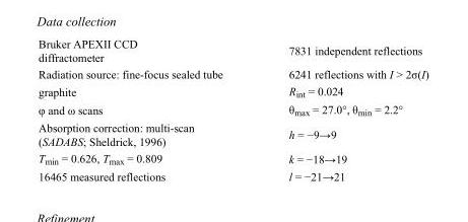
<table><tbody><tr><td>Bruker APEXII CCD diffractometer</td><td>7831 independent reflections</td></tr><tr><td>Radiation source: fine-focus sealed tube</td><td>6241 reflections with I &gt; 2σ(I)</td></tr><tr><td>graphite</td><td>R<sub>int</sub> = 0.024</td></tr><tr><td>φ and ω scans</td><td>θ<sub>max</sub> = 27.0°, θ<sub>min</sub> = 2.2°</td></tr><tr><td>Absorption correction: multi-scan (SADABS; Sheldrick, 1996)</td><td>h = −9→9</td></tr><tr><td>T<sub>min</sub> = 0.626, T<sub>max</sub> = 0.809</td><td>k = −18→19</td></tr><tr><td>16465 measured reflections</td><td>l = −21→21</td></tr></tbody></table>